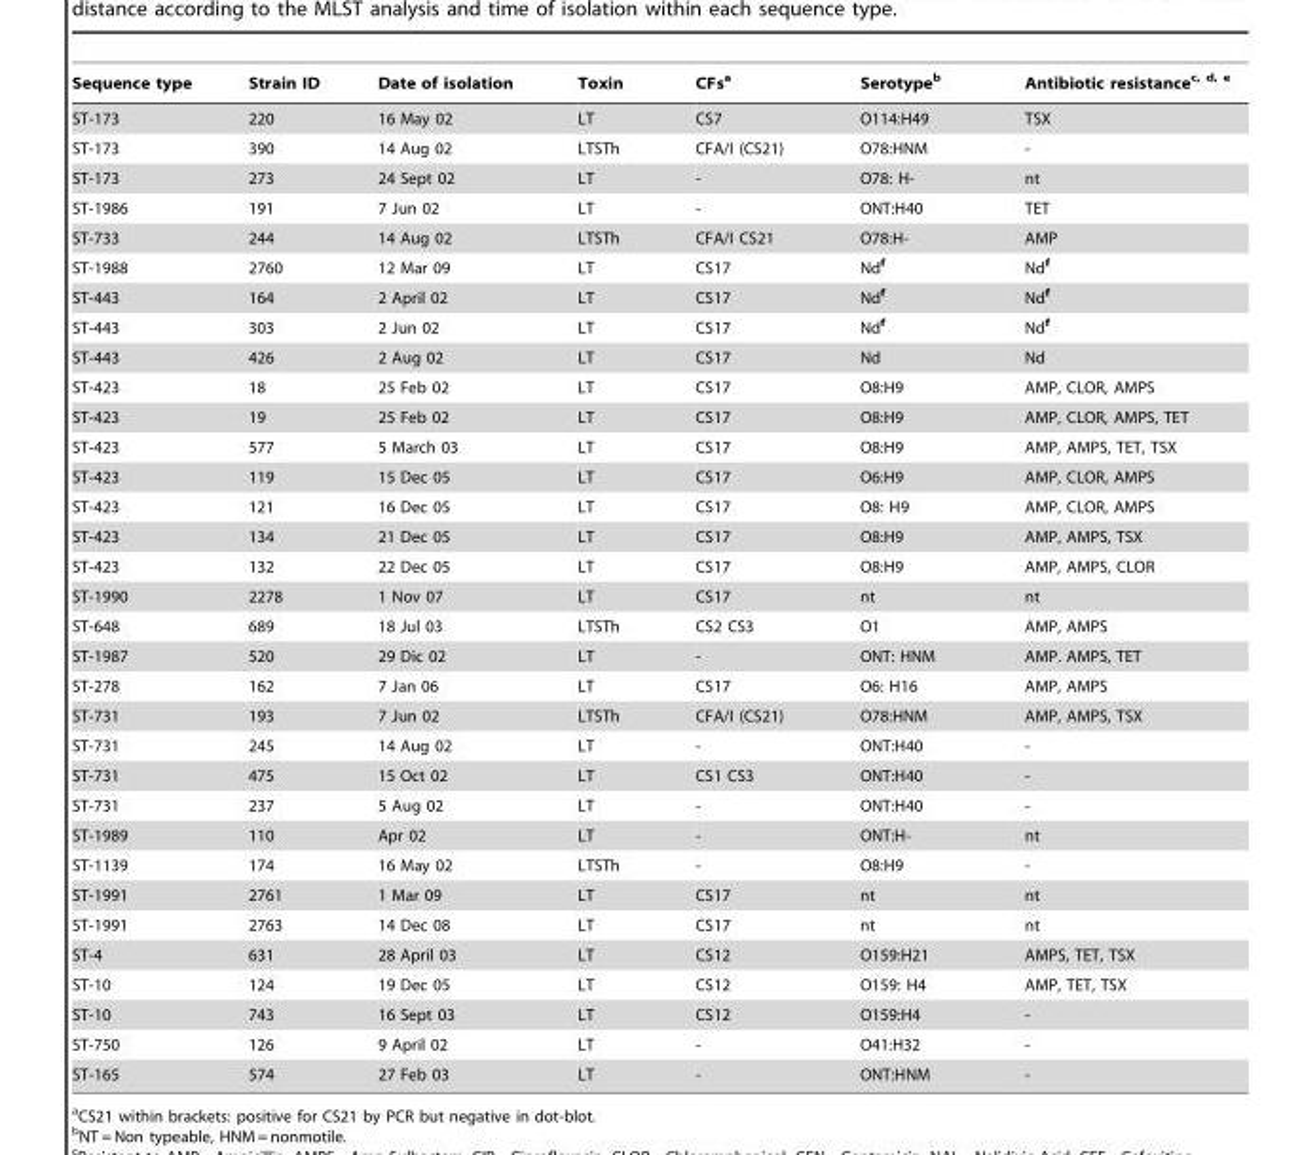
<table><thead><tr><td>Sequence type</td><td>Strain ID</td><td>Date of isolation</td><td>Toxin</td><td>CFs<sup>a</sup></td><td>Serotype<sup>b</sup></td><td>Antibiotic resistance<sup>c,</sup> d<sup>,</sup> e</td></tr></thead><tbody><tr><td>ST-173</td><td>220</td><td>16 May 02</td><td>LT</td><td>CS7</td><td>O114:H49</td><td>TSX</td></tr><tr><td>ST-173</td><td>390</td><td>14 Aug 02</td><td>LTSTh</td><td>CFA/I (CS21)</td><td>O78:HNM</td><td>-</td></tr><tr><td>ST-173</td><td>273</td><td>24 Sept 02</td><td>LT</td><td>-</td><td>O78: H-</td><td>nt</td></tr><tr><td>ST-1986</td><td>191</td><td>7 Jun 02</td><td>LT</td><td>-</td><td>ONT:H40</td><td>TET</td></tr><tr><td>ST-733</td><td>244</td><td>14 Aug 02</td><td>LTSTh</td><td>CFA/I CS21</td><td>O78:H-</td><td>AMP</td></tr><tr><td>ST-1988</td><td>2760</td><td>12 Mar 09</td><td>LT</td><td>CS17</td><td>Nd<sup>f</sup></td><td>Nd<sup>f</sup></td></tr><tr><td>ST-443</td><td>164</td><td>2 April 02</td><td>LT</td><td>CS17</td><td>Nd<sup>f</sup></td><td>Nd<sup>f</sup></td></tr><tr><td>ST-443</td><td>303</td><td>2 Jun 02</td><td>LT</td><td>CS17</td><td>Nd<sup>f</sup></td><td>Nd<sup>f</sup></td></tr><tr><td>ST-443</td><td>426</td><td>2 Aug 02</td><td>LT</td><td>CS17</td><td>Nd</td><td>Nd</td></tr><tr><td>ST-423</td><td>18</td><td>25 Feb 02</td><td>LT</td><td>CS17</td><td>O8:H9</td><td>AMP, CLOR, AMPS</td></tr><tr><td>ST-423</td><td>19</td><td>25 Feb 02</td><td>LT</td><td>CS17</td><td>O8:H9</td><td>AMP, CLOR, AMPS, TET</td></tr><tr><td>ST-423</td><td>577</td><td>5 March 03</td><td>LT</td><td>CS17</td><td>O8:H9</td><td>AMP, AMPS, TET, TSX</td></tr><tr><td>ST-423</td><td>119</td><td>15 Dec 05</td><td>LT</td><td>CS17</td><td>O6:H9</td><td>AMP, CLOR, AMPS</td></tr><tr><td>ST-423</td><td>121</td><td>16 Dec 05</td><td>LT</td><td>CS17</td><td>O8: H9</td><td>AMP, CLOR, AMPS</td></tr><tr><td>ST-423</td><td>134</td><td>21 Dec 05</td><td>LT</td><td>CS17</td><td>O8:H9</td><td>AMP, AMPS, TSX</td></tr><tr><td>ST-423</td><td>132</td><td>22 Dec 05</td><td>LT</td><td>CS17</td><td>O8:H9</td><td>AMP, AMPS, CLOR</td></tr><tr><td>ST-1990</td><td>2278</td><td>1 Nov 07</td><td>LT</td><td>CS17</td><td>nt</td><td>nt</td></tr><tr><td>ST-648</td><td>689</td><td>18 Jul 03</td><td>LTSTh</td><td>CS2 CS3</td><td>O1</td><td>AMP, AMPS</td></tr><tr><td>ST-1987</td><td>520</td><td>29 Dic 02</td><td>LT</td><td>-</td><td>ONT: HNM</td><td>AMP. AMPS, TET</td></tr><tr><td>ST-278</td><td>162</td><td>7 Jan 06</td><td>LT</td><td>CS17</td><td>O6: H16</td><td>AMP, AMPS</td></tr><tr><td>ST-731</td><td>193</td><td>7 Jun 02</td><td>LTSTh</td><td>CFA/I (CS21)</td><td>O78:HNM</td><td>AMP, AMPS, TSX</td></tr><tr><td>ST-731</td><td>245</td><td>14 Aug 02</td><td>LT</td><td>-</td><td>ONT:H40</td><td>-</td></tr><tr><td>ST-731</td><td>475</td><td>15 Oct 02</td><td>LT</td><td>CS1 CS3</td><td>ONT:H40</td><td>-</td></tr><tr><td>ST-731</td><td>237</td><td>5 Aug 02</td><td>LT</td><td>-</td><td>ONT:H40</td><td>-</td></tr><tr><td>ST-1989</td><td>110</td><td>Apr 02</td><td>LT</td><td>-</td><td>ONT:H-</td><td>nt</td></tr><tr><td>ST-1139</td><td>174</td><td>16 May 02</td><td>LTSTh</td><td>-</td><td>O8:H9</td><td>-</td></tr><tr><td>ST-1991</td><td>2761</td><td>1 Mar 09</td><td>LT</td><td>CS17</td><td>nt</td><td>nt</td></tr><tr><td>ST-1991</td><td>2763</td><td>14 Dec 08</td><td>LT</td><td>CS17</td><td>nt</td><td>nt</td></tr><tr><td>ST-4</td><td>631</td><td>28 April 03</td><td>LT</td><td>CS12</td><td>O159:H21</td><td>AMPS, TET, TSX</td></tr><tr><td>ST-10</td><td>124</td><td>19 Dec 05</td><td>LT</td><td>CS12</td><td>O159: H4</td><td>AMP, TET, TSX</td></tr><tr><td>ST-10</td><td>743</td><td>16 Sept 03</td><td>LT</td><td>CS12</td><td>O159:H4</td><td>-</td></tr><tr><td>ST-750</td><td>126</td><td>9 April 02</td><td>LT</td><td>-</td><td>O41:H32</td><td>-</td></tr><tr><td>ST-165</td><td>574</td><td>27 Feb 03</td><td>LT</td><td>-</td><td>ONT:HNM</td><td>-</td></tr></tbody></table>